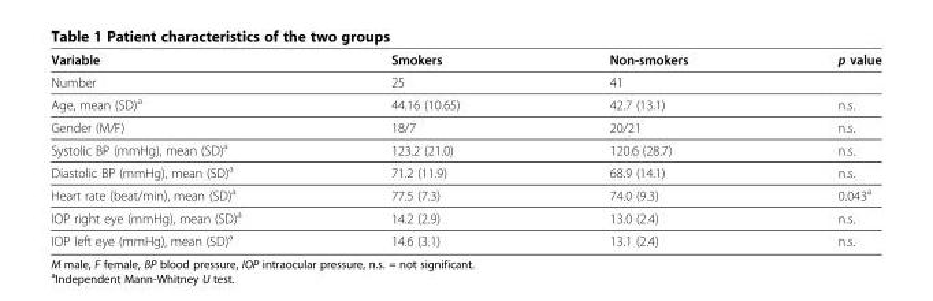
<table><thead><tr><td>Variable</td><td>Smokers</td><td>Non-smokers</td><td>p value</td></tr></thead><tbody><tr><td>Number</td><td>25</td><td>41</td><td></td></tr><tr><td>Age, mean (SD)<sup>a</sup></td><td>44.16 (10.65)</td><td>42.7 (13.1)</td><td>n.s.</td></tr><tr><td>Gender (M/F)</td><td>18/7</td><td>20/21</td><td>n.s.</td></tr><tr><td>Systolic BP (mmHg), mean (SD)<sup>a</sup></td><td>123.2 (21.0)</td><td>120.6 (28.7)</td><td>n.s.</td></tr><tr><td>Diastolic BP (mmHg), mean (SD)<sup>a</sup></td><td>71.2 (11.9)</td><td>68.9 (14.1)</td><td>n.s.</td></tr><tr><td>Heart rate (beat/min), mean (SD)<sup>a</sup></td><td>77.5 (7.3)</td><td>74.0 (9.3)</td><td>0.043<sup>a</sup></td></tr><tr><td>IOP right eye (mmHg), mean (SD)<sup>a</sup></td><td>14.2 (2.9)</td><td>13.0 (2.4)</td><td>n.s.</td></tr><tr><td>IOP left eye (mmHg), mean (SD)<sup>a</sup></td><td>14.6 (3.1)</td><td>13.1 (2.4)</td><td>n.s.</td></tr></tbody></table>